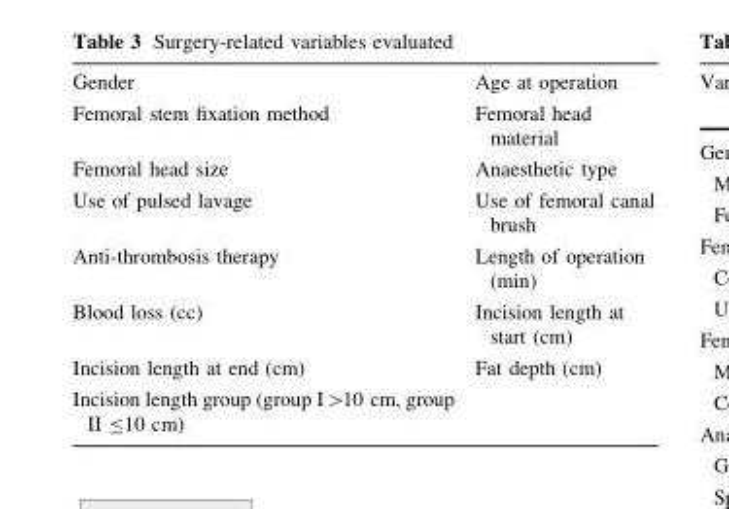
<table><tbody><tr><td>Gender</td><td>Age at operation</td></tr><tr><td>Femoral stem fixation method</td><td>Femoral head material</td></tr><tr><td>Femoral head size</td><td>Anaesthetic type</td></tr><tr><td>Use of pulsed lavage</td><td>Use of femoral canal brush</td></tr><tr><td>Anti-thrombosis therapy</td><td>Length of operation (min)</td></tr><tr><td>Blood loss (cc)</td><td>Incision length at start (cm)</td></tr><tr><td>Incision length at end (cm)</td><td>Fat depth (cm)</td></tr><tr><td>Incision length group (group I&gt;10 cm, group II ≤10 cm)</td><td></td></tr></tbody></table>